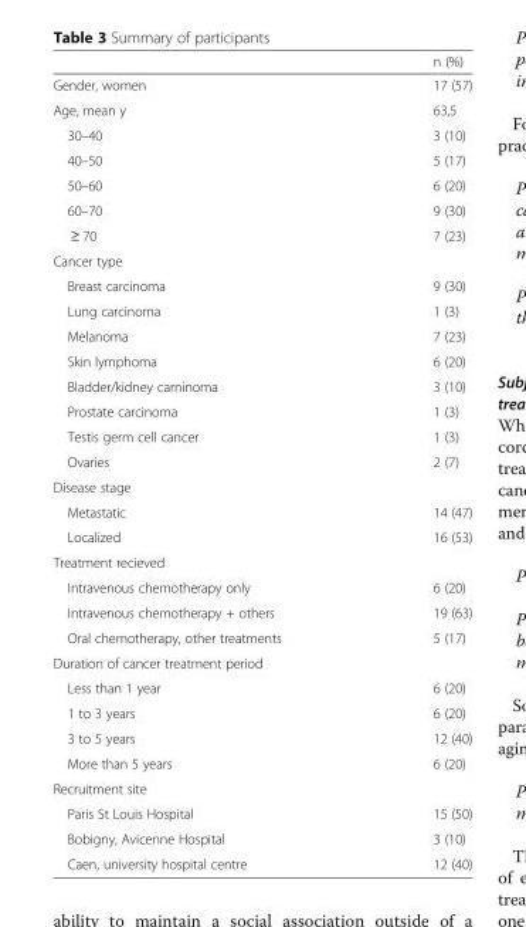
<table><thead><tr><td></td><td>n (%)</td></tr></thead><tbody><tr><td>Gender, women</td><td>17 (57)</td></tr><tr><td>Age, mean y</td><td>63,5</td></tr><tr><td>30–40</td><td>3 (10)</td></tr><tr><td>40–50</td><td>5 (17)</td></tr><tr><td>50–60</td><td>6 (20)</td></tr><tr><td>60–70</td><td>9 (30)</td></tr><tr><td>≥ 70</td><td>7 (23)</td></tr><tr><td colspan="2">Cancer type</td></tr><tr><td>Breast carcinoma</td><td>9 (30)</td></tr><tr><td>Lung carcinoma</td><td>1 (3)</td></tr><tr><td>Melanoma</td><td>7 (23)</td></tr><tr><td>Skin lymphoma</td><td>6 (20)</td></tr><tr><td>Bladder/kidney carninoma</td><td>3 (10)</td></tr><tr><td>Prostate carcinoma</td><td>1 (3)</td></tr><tr><td>Testis germ cell cancer</td><td>1 (3)</td></tr><tr><td>Ovaries</td><td>2 (7)</td></tr><tr><td colspan="2">Disease stage</td></tr><tr><td>Metastatic</td><td>14 (47)</td></tr><tr><td>Localized</td><td>16 (53)</td></tr><tr><td colspan="2">Treatment recieved</td></tr><tr><td>Intravenous chemotherapy only</td><td>6 (20)</td></tr><tr><td>Intravenous chemotherapy + others</td><td>19 (63)</td></tr><tr><td>Oral chemotherapy, other treatments</td><td>5 (17)</td></tr><tr><td colspan="2">Duration of cancer treatment period</td></tr><tr><td>Less than 1 year</td><td>6 (20)</td></tr><tr><td>1 to 3 years</td><td>6 (20)</td></tr><tr><td>3 to 5 years</td><td>12 (40)</td></tr><tr><td>More than 5 years</td><td>6 (20)</td></tr><tr><td colspan="2">Recruitment site</td></tr><tr><td>Paris St Louis Hospital</td><td>15 (50)</td></tr><tr><td>Bobigny, Avicenne Hospital</td><td>3 (10)</td></tr><tr><td>Caen, university hospital centre</td><td>12 (40)</td></tr></tbody></table>